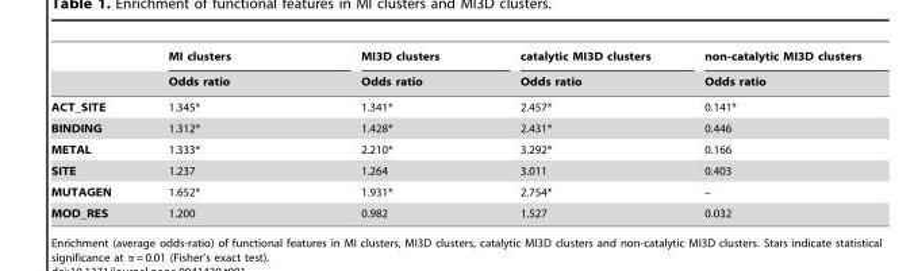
<table><thead><tr><td rowspan="2"></td><td rowspan="2">MI clusters Odds ratio</td><td rowspan="2">MI3D clusters Odds ratio</td><td rowspan="2">catalytic MI3D clusters Odds ratio</td><td rowspan="2">non-catalytic MI3D clusters Odds ratio</td></tr><tr></tr></thead><tbody><tr><td>ACT_SITE</td><td>1.345*</td><td>1.341*</td><td>2.457*</td><td>0.141*</td></tr><tr><td>BINDING</td><td>1.312*</td><td>1.428*</td><td>2.431*</td><td>0.446</td></tr><tr><td>METAL</td><td>1.333*</td><td>2.210*</td><td>3.292*</td><td>0.166</td></tr><tr><td>SITE</td><td>1.237</td><td>1.264</td><td>3.011</td><td>0.403</td></tr><tr><td>MUTAGEN</td><td>1.652*</td><td>1.931*</td><td>2.754*</td><td>–</td></tr><tr><td>MOD_RES</td><td>1.200</td><td>0.982</td><td>1.527</td><td>0.032</td></tr></tbody></table>